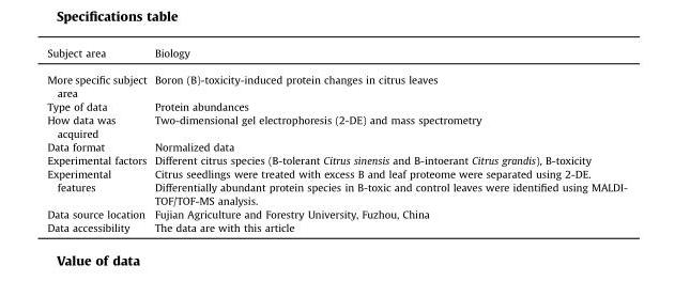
<table><tbody><tr><td>Subject area</td><td>Biology</td></tr><tr><td>More specific subject area</td><td>Boron (B)-toxicity-induced protein changes in citrus leaves</td></tr><tr><td>Type of data</td><td>Protein abundances</td></tr><tr><td>How data was acquired</td><td>Two-dimensional gel electrophoresis (2-DE) and mass spectrometry</td></tr><tr><td>Data format</td><td>Normalized data</td></tr><tr><td>Experimental factors</td><td>Different citrus species (B-tolerant Citrus sinensis and B-intoerant Citrus grandis), B-toxicity</td></tr><tr><td>Experimental features</td><td>Citrus seedlings were treated with excess B and leaf proteome were separated using 2-DE. Differentially abundant protein species in B-toxic and control leaves were identified using MALDI- TOF/TOF-MS analysis.</td></tr><tr><td>Data source location</td><td>Fujian Agriculture and Forestry University, Fuzhou, China</td></tr><tr><td>Data accessibility</td><td>The data are with this article</td></tr></tbody></table>